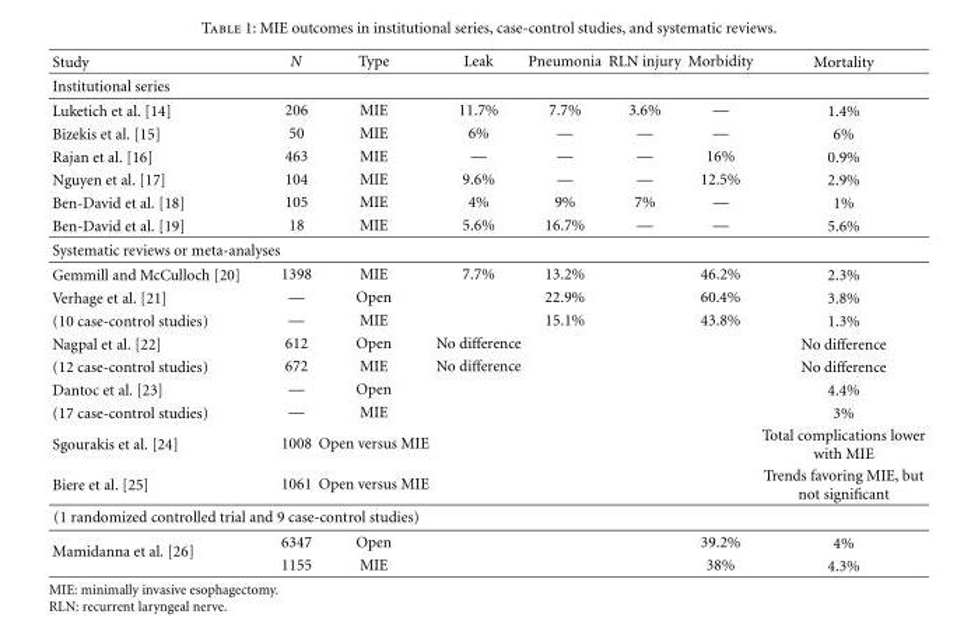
<table><thead><tr><td>Study</td><td>N</td><td>Type</td><td>Leak</td><td>Pneumonia</td><td>RLN injury</td><td>Morbidity</td><td>Mortality</td></tr></thead><tbody><tr><td colspan="8">Institutional series</td></tr><tr><td>Luketich et al. [14]</td><td>206</td><td>MIE</td><td>11.7%</td><td>7.7%</td><td>3.6%</td><td>—</td><td>1.4%</td></tr><tr><td>Bizekis et al. [15]</td><td>50</td><td>MIE</td><td>6%</td><td>—</td><td>—</td><td>—</td><td>6%</td></tr><tr><td>Rajan et al. [16]</td><td>463</td><td>MIE</td><td>—</td><td>—</td><td>—</td><td>16%</td><td>0.9%</td></tr><tr><td>Nguyen et al. [17]</td><td>104</td><td>MIE</td><td>9.6%</td><td>—</td><td>—</td><td>12.5%</td><td>2.9%</td></tr><tr><td>Ben-David et al. [18]</td><td>105</td><td>MIE</td><td>4%</td><td>9%</td><td>7%</td><td>—</td><td>1%</td></tr><tr><td>Ben-David et al. [19]</td><td>18</td><td>MIE</td><td>5.6%</td><td>16.7%</td><td>—</td><td>—</td><td>5.6%</td></tr><tr><td colspan="8">Systematic reviews or meta-analyses</td></tr><tr><td>Gemmill and McCulloch [20]</td><td>1398</td><td>MIE</td><td>7.7%</td><td>13.2%</td><td></td><td>46.2%</td><td>2.3%</td></tr><tr><td>Verhage et al. [21]</td><td>—</td><td>Open</td><td></td><td>22.9%</td><td></td><td>60.4%</td><td>3.8%</td></tr><tr><td>(10 case-control studies)</td><td>—</td><td>MIE</td><td></td><td>15.1%</td><td></td><td>43.8%</td><td>1.3%</td></tr><tr><td>Nagpal et al. [22]</td><td>612</td><td>Open</td><td>No difference</td><td></td><td></td><td></td><td>No difference</td></tr><tr><td>(12 case-control studies)</td><td>672</td><td>MIE</td><td>No difference</td><td></td><td></td><td></td><td>No difference</td></tr><tr><td>Dantoc et al. [23]</td><td>—</td><td>Open</td><td></td><td></td><td></td><td></td><td>4.4%</td></tr><tr><td>(17 case-control studies)</td><td>—</td><td>MIE</td><td></td><td></td><td></td><td></td><td>3%</td></tr><tr><td>Sgourakis et al. [24]</td><td>1008</td><td>Open versus MIE</td><td></td><td></td><td></td><td></td><td>Total complications lower with MIE</td></tr><tr><td>Biere et al. [25]</td><td>1061</td><td>Open versus MIE</td><td></td><td></td><td></td><td></td><td>Trends favoring MIE, but not significant</td></tr><tr><td colspan="8">(1 randomized controlled trial and 9 case-control studies)</td></tr><tr><td rowspan="2">Mamidanna et al. [26]</td><td>6347</td><td>Open</td><td></td><td></td><td></td><td>39.2%</td><td>4%</td></tr><tr><td>1155</td><td>MIE</td><td></td><td></td><td></td><td>38%</td><td>4.3%</td></tr></tbody></table>